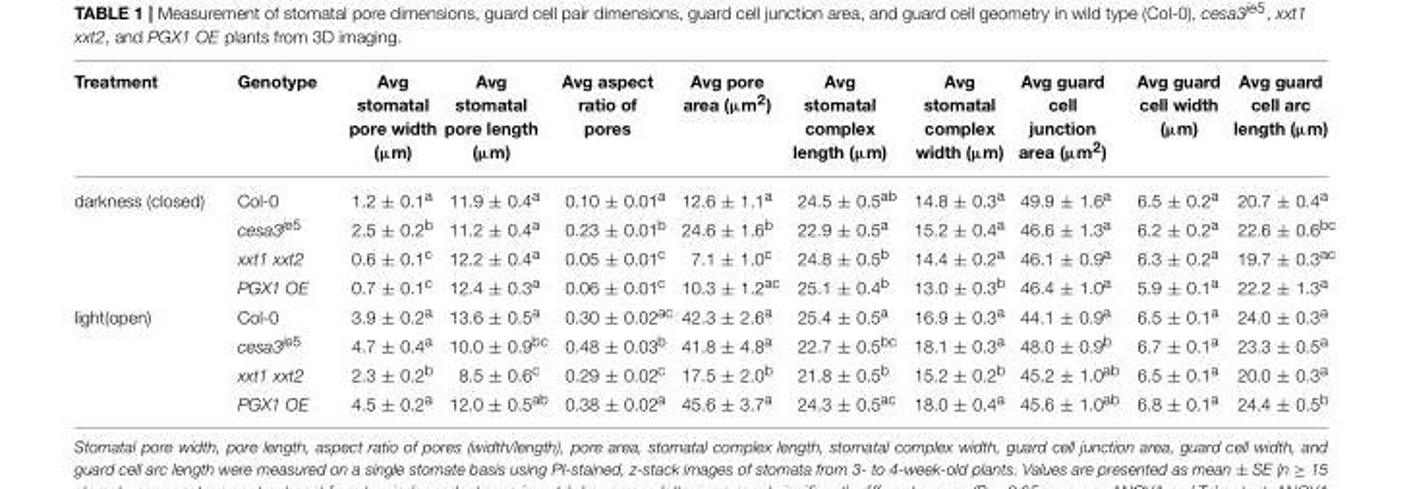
<table><thead><tr><td>Treatment</td><td>Genotype</td><td>Avg stomatal pore width (µm)</td><td>Avg stomatal pore length (µm)</td><td>Avg aspect ratio of pores</td><td>Avg pore area (µm<sup>2</sup>)</td><td>Avg stomatal complex length (µm)</td><td>Avg stomatal complex width (µm)</td><td>Avg guard cell junction area (µm<sup>2</sup>)</td><td>Avg guard cell width (µm)</td><td>Avg guard cell arc length (µm)</td></tr></thead><tbody><tr><td rowspan="4">darkness (closed)</td><td>Col-0</td><td>1.2 ± 0.1<sup>a</sup></td><td>11.9 ± 0.4<sup>a</sup></td><td>0.10 ± 0.01<sup>a</sup></td><td>12.6 ± 1.1<sup>a</sup></td><td>24.5 ± 0.5<sup>ab</sup></td><td>14.8 ± 0.3<sup>a</sup></td><td>49.9 ± 1.6<sup>a</sup></td><td>6.5 ± 0.2<sup>a</sup></td><td>20.7 ± 0.4<sup>a</sup></td></tr><tr><td>cesa3je5</td><td>2.5 ± 0.2<sup>b</sup></td><td>11.2 ± 0.4<sup>a</sup></td><td>0.23 ± 0.01<sup>b</sup></td><td>24.6 ± 1.6<sup>b</sup></td><td>22.9 ± 0.5<sup>a</sup></td><td>15.2 ± 0.4<sup>a</sup></td><td>46.6 ± 1.3<sup>a</sup></td><td>6.2 ± 0.2<sup>a</sup></td><td>22.6 ± 0.6<sup>bc</sup></td></tr><tr><td>xxt1 xxt2</td><td>0.6 ± 0.1<sup>c</sup></td><td>12.2 ± 0.4<sup>a</sup></td><td>0.05 ± 0.01<sup>c</sup></td><td>7.1 ± 1.0<sup>c</sup></td><td>24.8 ± 0.5<sup>b</sup></td><td>14.4 ± 0.2<sup>a</sup></td><td>46.1 ± 0.9<sup>a</sup></td><td>6.3 ± 0.2<sup>a</sup></td><td>19.7 ± 0.3<sup>ac</sup></td></tr><tr><td>PGX1 OE</td><td>0.7 ± 0.1<sup>c</sup></td><td>12.4 ± 0.3<sup>a</sup></td><td>0.06 ± 0.01<sup>c</sup></td><td>10.3 ± 1.2<sup>ac</sup></td><td>25.1 ± 0.4<sup>b</sup></td><td>13.0 ± 0.3<sup>b</sup></td><td>46.4 ± 1.0<sup>a</sup></td><td>5.9 ± 0.1<sup>a</sup></td><td>22.2 ± 1.3<sup>a</sup></td></tr><tr><td rowspan="4">light(open)</td><td>Col-0</td><td>3.9 ± 0.2<sup>a</sup></td><td>13.6 ± 0.5<sup>a</sup></td><td>0.30 ± 0.02<sup>ac</sup></td><td>42.3 ± 2.6<sup>a</sup></td><td>25.4 ± 0.5<sup>a</sup></td><td>16.9 ± 0.3<sup>a</sup></td><td>44.1 ± 0.9<sup>a</sup></td><td>6.5 ± 0.1<sup>a</sup></td><td>24.0 ± 0.3<sup>a</sup></td></tr><tr><td>cesa3je5</td><td>4.7 ± 0.4<sup>a</sup></td><td>10.0 ± 0.9<sup>bc</sup></td><td>0.48 ± 0.03<sup>b</sup></td><td>41.8 ± 4.8<sup>a</sup></td><td>22.7 ± 0.5<sup>bc</sup></td><td>18.1 ± 0.3<sup>a</sup></td><td>48.0 ± 0.9<sup>b</sup></td><td>6.7 ± 0.1<sup>a</sup></td><td>23.3 ± 0.5<sup>a</sup></td></tr><tr><td>xxt1 xxt2</td><td>2.3 ± 0.2<sup>b</sup></td><td>8.5 ± 0.6<sup>c</sup></td><td>0.29 ± 0.02<sup>c</sup></td><td>17.5 ± 2.0<sup>b</sup></td><td>21.8 ± 0.5<sup>b</sup></td><td>15.2 ± 0.2<sup>b</sup></td><td>45.2 ± 1.0<sup>ab</sup></td><td>6.5 ± 0.1<sup>a</sup></td><td>20.0 ± 0.3<sup>a</sup></td></tr><tr><td>PGX1 OE</td><td>4.5 ± 0.2<sup>a</sup></td><td>12.0 ± 0.5<sup>ab</sup></td><td>0.38 ± 0.02<sup>a</sup></td><td>45.6 ± 3.7<sup>a</sup></td><td>24.3 ± 0.5<sup>ac</sup></td><td>18.0 ± 0.4<sup>a</sup></td><td>45.6 ± 1.0<sup>ab</sup></td><td>6.8 ± 0.1<sup>a</sup></td><td>24.4 ± 0.5<sup>b</sup></td></tr></tbody></table>